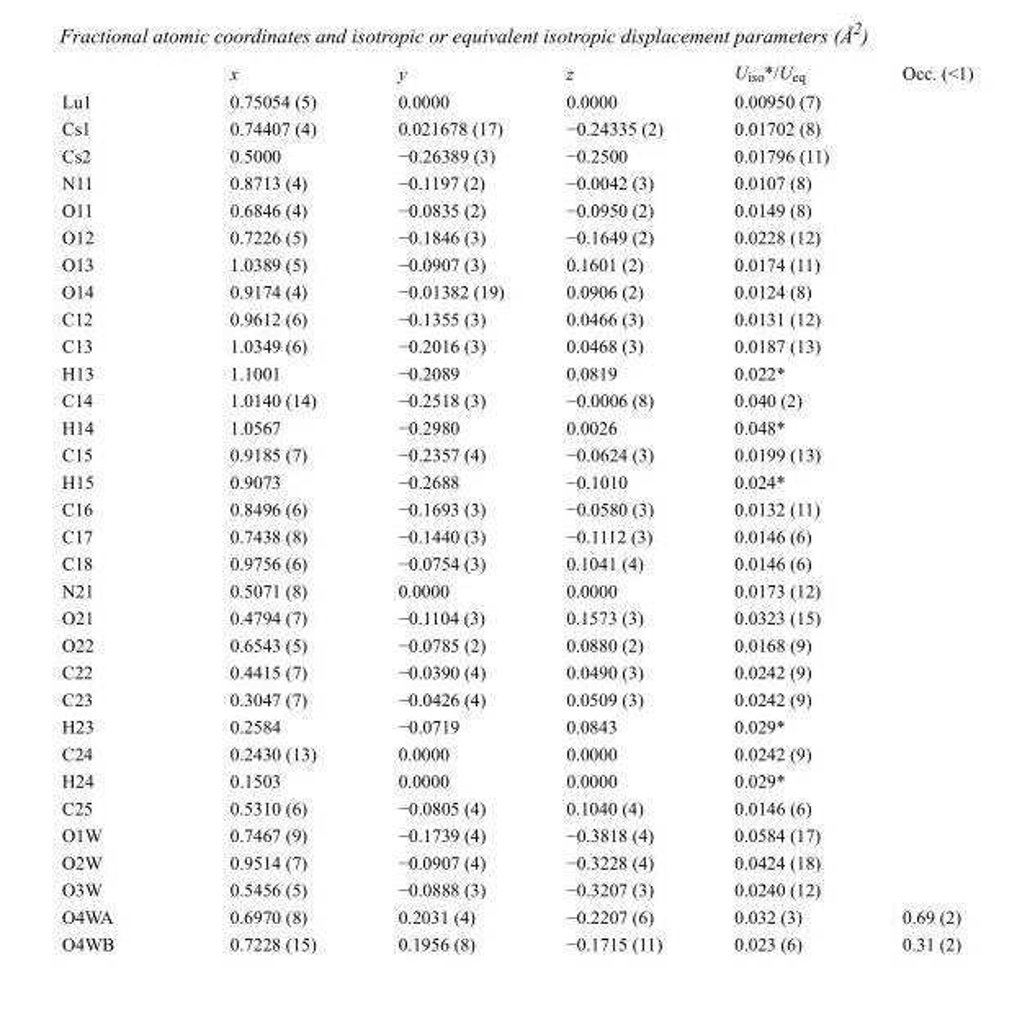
<table><thead><tr><td></td><td>x</td><td>y</td><td>z</td><td>U<sub>iso</sub>*/U<sub>eq</sub></td><td>Occ. (&lt;1)</td></tr></thead><tbody><tr><td>Lu1</td><td>0.75054 (5)</td><td>0.0000</td><td>0.0000</td><td>0.00950 (7)</td><td></td></tr><tr><td>Cs1</td><td>0.74407 (4)</td><td>0.021678 (17)</td><td>−0.24335 (2)</td><td>0.01702 (8)</td><td></td></tr><tr><td>Cs2</td><td>0.5000</td><td>−0.26389 (3)</td><td>−0.2500</td><td>0.01796 (11)</td><td></td></tr><tr><td>N11</td><td>0.8713 (4)</td><td>−0.1197 (2)</td><td>−0.0042 (3)</td><td>0.0107 (8)</td><td></td></tr><tr><td>O11</td><td>0.6846 (4)</td><td>−0.0835 (2)</td><td>−0.0950 (2)</td><td>0.0149 (8)</td><td></td></tr><tr><td>O12</td><td>0.7226 (5)</td><td>−0.1846 (3)</td><td>−0.1649 (2)</td><td>0.0228 (12)</td><td></td></tr><tr><td>O13</td><td>1.0389 (5)</td><td>−0.0907 (3)</td><td>0.1601 (2)</td><td>0.0174 (11)</td><td></td></tr><tr><td>O14</td><td>0.9174 (4)</td><td>−0.01382 (19)</td><td>0.0906 (2)</td><td>0.0124 (8)</td><td></td></tr><tr><td>C12</td><td>0.9612 (6)</td><td>−0.1355 (3)</td><td>0.0466 (3)</td><td>0.0131 (12)</td><td></td></tr><tr><td>C13</td><td>1.0349 (6)</td><td>−0.2016 (3)</td><td>0.0468 (3)</td><td>0.0187 (13)</td><td></td></tr><tr><td>H13</td><td>1.1001</td><td>−0.2089</td><td>0.0819</td><td>0.022*</td><td></td></tr><tr><td>C14</td><td>1.0140 (14)</td><td>−0.2518 (3)</td><td>−0.0006 (8)</td><td>0.040 (2)</td><td></td></tr><tr><td>H14</td><td>1.0567</td><td>−0.2980</td><td>0.0026</td><td>0.048*</td><td></td></tr><tr><td>C15</td><td>0.9185 (7)</td><td>−0.2357 (4)</td><td>−0.0624 (3)</td><td>0.0199 (13)</td><td></td></tr><tr><td>H15</td><td>0.9073</td><td>−0.2688</td><td>−0.1010</td><td>0.024*</td><td></td></tr><tr><td>C16</td><td>0.8496 (6)</td><td>−0.1693 (3)</td><td>−0.0580 (3)</td><td>0.0132 (11)</td><td></td></tr><tr><td>C17</td><td>0.7438 (8)</td><td>−0.1440 (3)</td><td>−0.1112 (3)</td><td>0.0146 (6)</td><td></td></tr><tr><td>C18</td><td>0.9756 (6)</td><td>−0.0754 (3)</td><td>0.1041 (4)</td><td>0.0146 (6)</td><td></td></tr><tr><td>N21</td><td>0.5071 (8)</td><td>0.0000</td><td>0.0000</td><td>0.0173 (12)</td><td></td></tr><tr><td>O21</td><td>0.4794 (7)</td><td>−0.1104 (3)</td><td>0.1573 (3)</td><td>0.0323 (15)</td><td></td></tr><tr><td>O22</td><td>0.6543 (5)</td><td>−0.0785 (2)</td><td>0.0880 (2)</td><td>0.0168 (9)</td><td></td></tr><tr><td>C22</td><td>0.4415 (7)</td><td>−0.0390 (4)</td><td>0.0490 (3)</td><td>0.0242 (9)</td><td></td></tr><tr><td>C23</td><td>0.3047 (7)</td><td>−0.0426 (4)</td><td>0.0509 (3)</td><td>0.0242 (9)</td><td></td></tr><tr><td>H23</td><td>0.2584</td><td>−0.0719</td><td>0.0843</td><td>0.029*</td><td></td></tr><tr><td>C24</td><td>0.2430 (13)</td><td>0.0000</td><td>0.0000</td><td>0.0242 (9)</td><td></td></tr><tr><td>H24</td><td>0.1503</td><td>0.0000</td><td>0.0000</td><td>0.029*</td><td></td></tr><tr><td>C25</td><td>0.5310 (6)</td><td>−0.0805 (4)</td><td>0.1040 (4)</td><td>0.0146 (6)</td><td></td></tr><tr><td>O1W</td><td>0.7467 (9)</td><td>−0.1739 (4)</td><td>−0.3818 (4)</td><td>0.0584 (17)</td><td></td></tr><tr><td>O2W</td><td>0.9514 (7)</td><td>−0.0907 (4)</td><td>−0.3228 (4)</td><td>0.0424 (18)</td><td></td></tr><tr><td>O3W</td><td>0.5456 (5)</td><td>−0.0888 (3)</td><td>−0.3207 (3)</td><td>0.0240 (12)</td><td></td></tr><tr><td>O4WA</td><td>0.6970 (8)</td><td>0.2031 (4)</td><td>−0.2207 (6)</td><td>0.032 (3)</td><td>0.69 (2)</td></tr><tr><td>O4WB</td><td>0.7228 (15)</td><td>0.1956 (8)</td><td>−0.1715 (11)</td><td>0.023 (6)</td><td>0.31 (2)</td></tr></tbody></table>